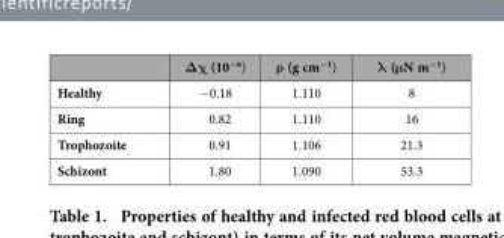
<table><thead><tr><td></td><td>Δχ (10<sup>−6</sup>)</td><td>ρ (g cm<sup>−1</sup>)</td><td>λ (μN m<sup>−1</sup>)</td></tr></thead><tbody><tr><td>Healthy</td><td>− 0.18</td><td>1.110</td><td>8</td></tr><tr><td>Ring</td><td>0.82</td><td>1.110</td><td>16</td></tr><tr><td>Trophozoite</td><td>0.91</td><td>1.106</td><td>21.3</td></tr><tr><td>Schizont</td><td>1.80</td><td>1.090</td><td>53.3</td></tr></tbody></table>